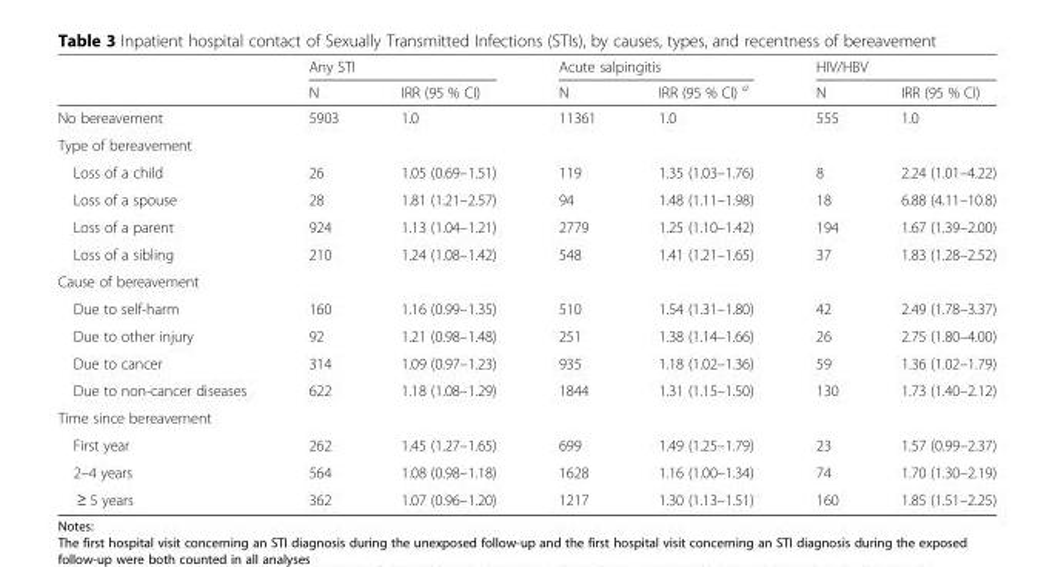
<table><thead><tr><td rowspan="2"></td><td colspan="2">Any STI</td><td colspan="2">Acute salpingitis</td><td colspan="2">HIV/HBV</td></tr><tr><td>N</td><td>IRR (95 % CI)</td><td>N</td><td>IRR (95 % CI) <sup>a</sup></td><td>N</td><td>IRR (95 % CI)</td></tr></thead><tbody><tr><td>No bereavement</td><td>5903</td><td>1.0</td><td>11361</td><td>1.0</td><td>555</td><td>1.0</td></tr><tr><td colspan="7">Type of bereavement</td></tr><tr><td>Loss of a child</td><td>26</td><td>1.05 (0.69–1.51)</td><td>119</td><td>1.35 (1.03–1.76)</td><td>8</td><td>2.24 (1.01–4.22)</td></tr><tr><td>Loss of a spouse</td><td>28</td><td>1.81 (1.21–2.57)</td><td>94</td><td>1.48 (1.11–1.98)</td><td>18</td><td>6.88 (4.11–10.8)</td></tr><tr><td>Loss of a parent</td><td>924</td><td>1.13 (1.04–1.21)</td><td>2779</td><td>1.25 (1.10–1.42)</td><td>194</td><td>1.67 (1.39–2.00)</td></tr><tr><td>Loss of a sibling</td><td>210</td><td>1.24 (1.08–1.42)</td><td>548</td><td>1.41 (1.21–1.65)</td><td>37</td><td>1.83 (1.28–2.52)</td></tr><tr><td colspan="7">Cause of bereavement</td></tr><tr><td>Due to self-harm</td><td>160</td><td>1.16 (0.99–1.35)</td><td>510</td><td>1.54 (1.31–1.80)</td><td>42</td><td>2.49 (1.78–3.37)</td></tr><tr><td>Due to other injury</td><td>92</td><td>1.21 (0.98–1.48)</td><td>251</td><td>1.38 (1.14–1.66)</td><td>26</td><td>2.75 (1.80–4.00)</td></tr><tr><td>Due to cancer</td><td>314</td><td>1.09 (0.97–1.23)</td><td>935</td><td>1.18 (1.02–1.36)</td><td>59</td><td>1.36 (1.02–1.79)</td></tr><tr><td>Due to non-cancer diseases</td><td>622</td><td>1.18 (1.08–1.29)</td><td>1844</td><td>1.31 (1.15–1.50)</td><td>130</td><td>1.73 (1.40–2.12)</td></tr><tr><td colspan="7">Time since bereavement</td></tr><tr><td>First year</td><td>262</td><td>1.45 (1.27–1.65)</td><td>699</td><td>1.49 (1.25–1.79)</td><td>23</td><td>1.57 (0.99–2.37)</td></tr><tr><td>2–4 years</td><td>564</td><td>1.08 (0.98–1.18)</td><td>1628</td><td>1.16 (1.00–1.34)</td><td>74</td><td>1.70 (1.30–2.19)</td></tr><tr><td>≥ 5 years</td><td>362</td><td>1.07 (0.96–1.20)</td><td>1217</td><td>1.30 (1.13–1.51)</td><td>160</td><td>1.85 (1.51–2.25)</td></tr></tbody></table>